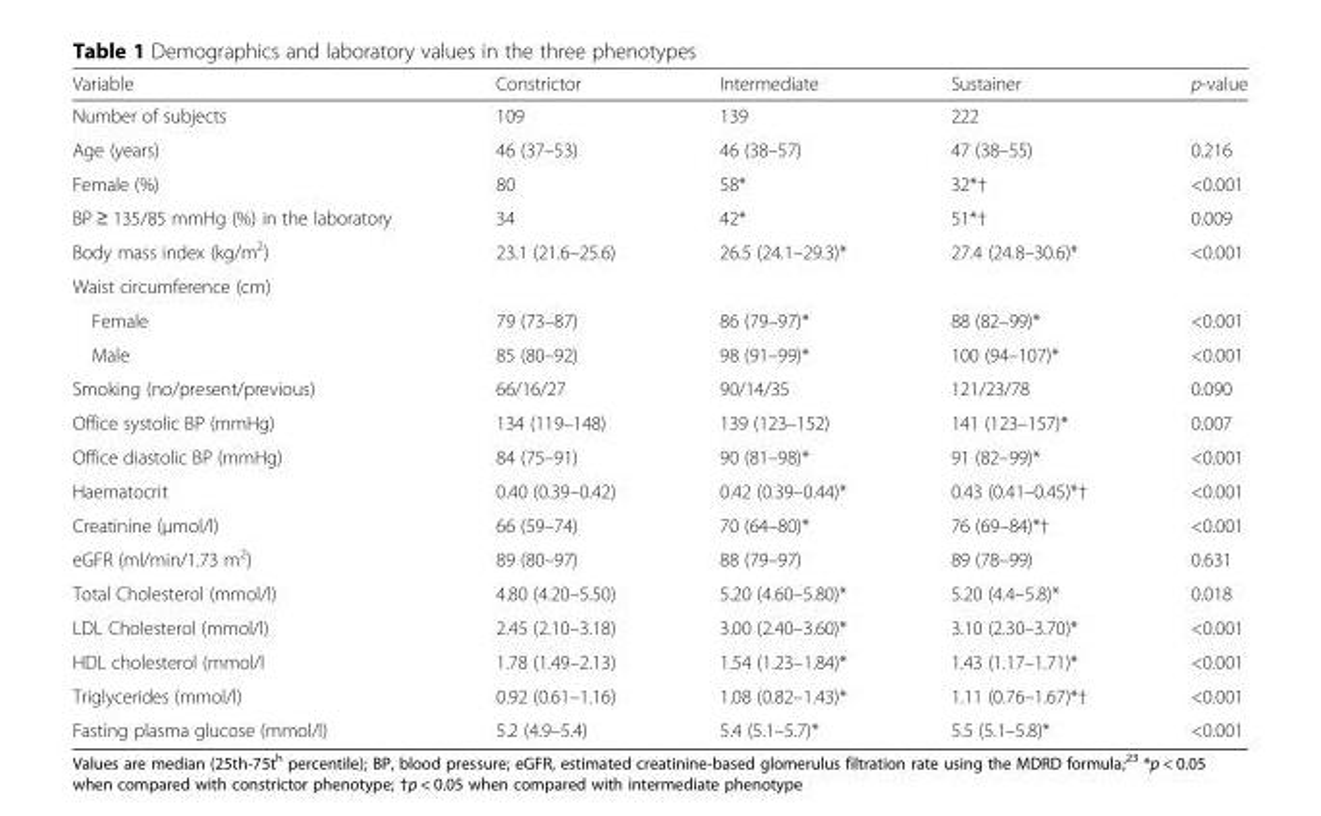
<table><thead><tr><td>Variable</td><td>Constrictor</td><td>Intermediate</td><td>Sustainer</td><td>p-value</td></tr></thead><tbody><tr><td>Number of subjects</td><td>109</td><td>139</td><td>222</td><td></td></tr><tr><td>Age (years)</td><td>46 (37–53)</td><td>46 (38–57)</td><td>47 (38–55)</td><td>0.216</td></tr><tr><td>Female (%)</td><td>80</td><td>58*</td><td>32*†</td><td>&lt;0.001</td></tr><tr><td>BP ≥ 135/85 mmHg (%) in the laboratory</td><td>34</td><td>42*</td><td>51*†</td><td>0.009</td></tr><tr><td>Body mass index (kg/m<sup>2</sup>)</td><td>23.1 (21.6–25.6)</td><td>26.5 (24.1–29.3)*</td><td>27.4 (24.8–30.6)*</td><td>&lt;0.001</td></tr><tr><td colspan="5">Waist circumference (cm)</td></tr><tr><td>Female</td><td>79 (73–87)</td><td>86 (79–97)*</td><td>88 (82–99)*</td><td>&lt;0.001</td></tr><tr><td>Male</td><td>85 (80–92)</td><td>98 (91–99)*</td><td>100 (94–107)*</td><td>&lt;0.001</td></tr><tr><td>Smoking (no/present/previous)</td><td>66/16/27</td><td>90/14/35</td><td>121/23/78</td><td>0.090</td></tr><tr><td>Office systolic BP (mmHg)</td><td>134 (119–148)</td><td>139 (123–152)</td><td>141 (123–157)*</td><td>0.007</td></tr><tr><td>Office diastolic BP (mmHg)</td><td>84 (75–91)</td><td>90 (81–98)*</td><td>91 (82–99)*</td><td>&lt;0.001</td></tr><tr><td>Haematocrit</td><td>0.40 (0.39–0.42)</td><td>0.42 (0.39–0.44)*</td><td>0.43 (0.41–0.45)*†</td><td>&lt;0.001</td></tr><tr><td>Creatinine (μmol/l)</td><td>66 (59–74)</td><td>70 (64–80)*</td><td>76 (69–84)*†</td><td>&lt;0.001</td></tr><tr><td>eGFR (ml/min/1.73 m<sup>2</sup>)</td><td>89 (80–97)</td><td>88 (79–97)</td><td>89 (78–99)</td><td>0.631</td></tr><tr><td>Total Cholesterol (mmol/l)</td><td>4.80 (4.20–5.50)</td><td>5.20 (4.60–5.80)*</td><td>5.20 (4.4–5.8)*</td><td>0.018</td></tr><tr><td>LDL Cholesterol (mmol/l)</td><td>2.45 (2.10–3.18)</td><td>3.00 (2.40–3.60)*</td><td>3.10 (2.30–3.70)*</td><td>&lt;0.001</td></tr><tr><td>HDL cholesterol (mmol/l</td><td>1.78 (1.49–2.13)</td><td>1.54 (1.23–1.84)*</td><td>1.43 (1.17–1.71)*</td><td>&lt;0.001</td></tr><tr><td>Triglycerides (mmol/l)</td><td>0.92 (0.61–1.16)</td><td>1.08 (0.82–1.43)*</td><td>1.11 (0.76–1.67)*†</td><td>&lt;0.001</td></tr><tr><td>Fasting plasma glucose (mmol/l)</td><td>5.2 (4.9–5.4)</td><td>5.4 (5.1–5.7)*</td><td>5.5 (5.1–5.8)*</td><td>&lt;0.001</td></tr></tbody></table>